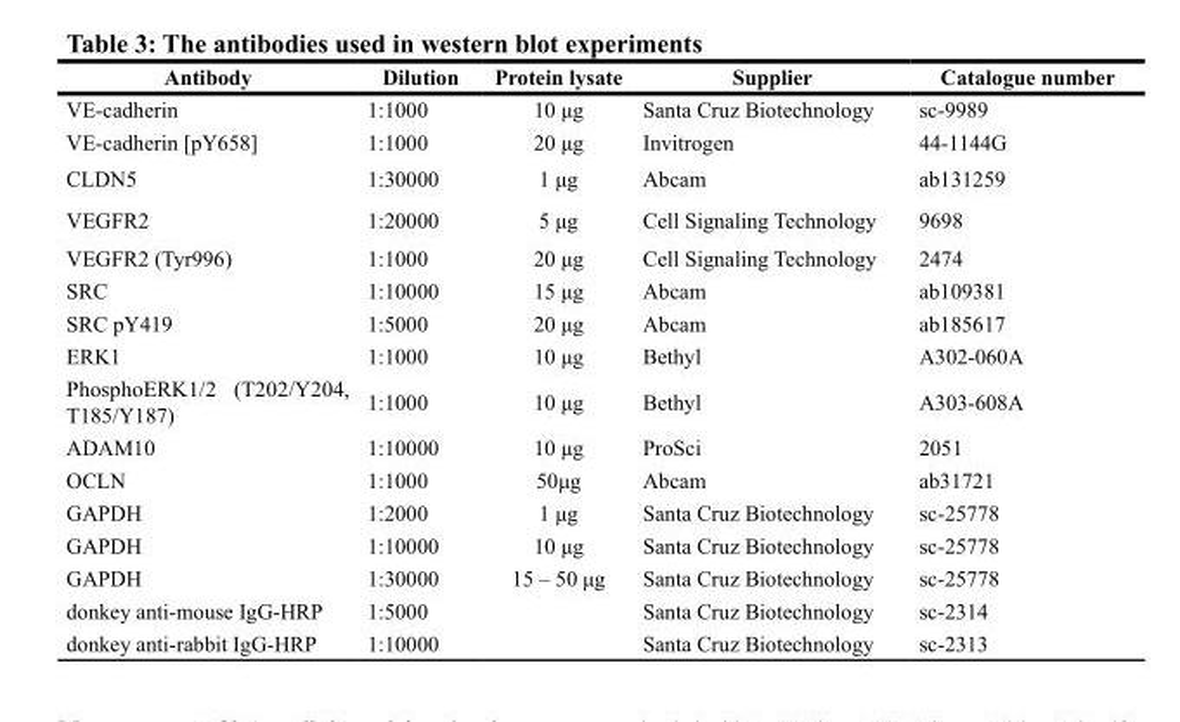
<table><thead><tr><td>Antibody</td><td>Dilution</td><td>Protein lysate</td><td>Supplier</td><td>Catalogue number</td></tr></thead><tbody><tr><td>VE-cadherin</td><td>1:1000</td><td>10 μg</td><td>Santa Cruz Biotechnology</td><td>sc-9989</td></tr><tr><td>VE-cadherin [pY658]</td><td>1:1000</td><td>20 μg</td><td>Invitrogen</td><td>44-1144G</td></tr><tr><td>CLDN5</td><td>1:30000</td><td>1 μg</td><td>Abcam</td><td>ab131259</td></tr><tr><td>VEGFR2</td><td>1:20000</td><td>5 μg</td><td>Cell Signaling Technology</td><td>9698</td></tr><tr><td>VEGFR2 (Tyr996)</td><td>1:1000</td><td>20 μg</td><td>Cell Signaling Technology</td><td>2474</td></tr><tr><td>SRC</td><td>1:10000</td><td>15 μg</td><td>Abcam</td><td>ab109381</td></tr><tr><td>SRC pY419</td><td>1:5000</td><td>20 μg</td><td>Abcam</td><td>ab185617</td></tr><tr><td>ERK1</td><td>1:1000</td><td>10 μg</td><td>Bethyl</td><td>A302-060A</td></tr><tr><td>PhosphoERK1/2 (T202/Y204, T185/Y187)</td><td>1:1000</td><td>10 μg</td><td>Bethyl</td><td>A303-608A</td></tr><tr><td>ADAM10</td><td>1:10000</td><td>10 μg</td><td>ProSci</td><td>2051</td></tr><tr><td>OCLN</td><td>1:1000</td><td>50μg</td><td>Abcam</td><td>ab31721</td></tr><tr><td>GAPDH</td><td>1:2000</td><td>1 μg</td><td>Santa Cruz Biotechnology</td><td>sc-25778</td></tr><tr><td>GAPDH</td><td>1:10000</td><td>10 μg</td><td>Santa Cruz Biotechnology</td><td>sc-25778</td></tr><tr><td>GAPDH</td><td>1:30000</td><td>15 – 50 μg</td><td>Santa Cruz Biotechnology</td><td>sc-25778</td></tr><tr><td>donkey anti-mouse IgG-HRP</td><td>1:5000</td><td></td><td>Santa Cruz Biotechnology</td><td>sc-2314</td></tr><tr><td>donkey anti-rabbit IgG-HRP</td><td>1:10000</td><td></td><td>Santa Cruz Biotechnology</td><td>sc-2313</td></tr></tbody></table>